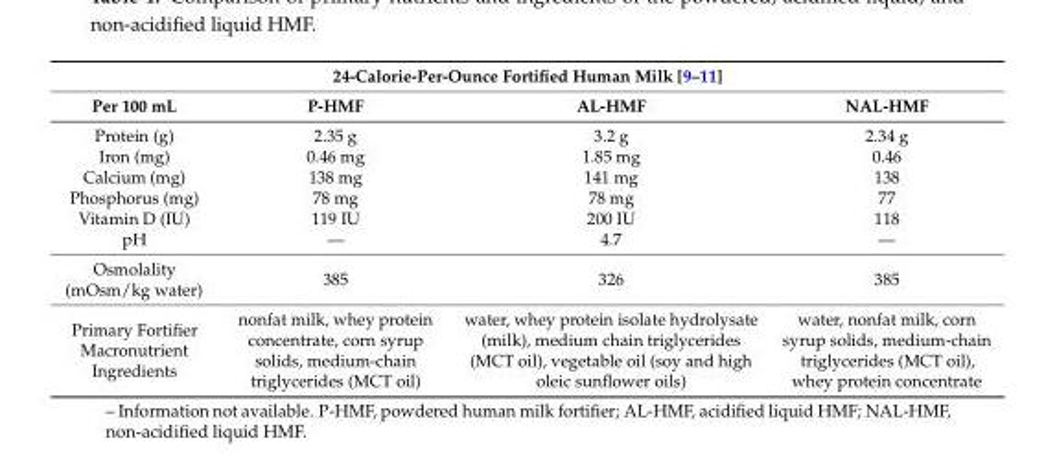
<table><thead><tr><td colspan="4">24-Calorie-Per-Ounce Fortified Human Milk [9–11]</td></tr><tr><td>Per 100 mL</td><td>P-HMF</td><td>AL-HMF</td><td>NAL-HMF</td></tr></thead><tbody><tr><td>Protein (g)</td><td>2.35 g</td><td>3.2 g</td><td>2.34 g</td></tr><tr><td>Iron (mg)</td><td>0.46 mg</td><td>1.85 mg</td><td>0.46</td></tr><tr><td>Calcium (mg)</td><td>138 mg</td><td>141 mg</td><td>138</td></tr><tr><td>Phosphorus (mg)</td><td>78 mg</td><td>78 mg</td><td>77</td></tr><tr><td>Vitamin D (IU)</td><td>119 IU</td><td>200 IU</td><td>118</td></tr><tr><td>pH</td><td>—</td><td>4.7</td><td>—</td></tr><tr><td>Osmolality (mOsm/kg water)</td><td>385</td><td>326</td><td>385</td></tr><tr><td>Primary Fortifier Macronutrient Ingredients</td><td>nonfat milk, whey protein concentrate, corn syrup solids, medium-chain triglycerides (MCT oil)</td><td>water, whey protein isolate hydrolysate (milk), medium chain triglycerides (MCT oil), vegetable oil (soy and high oleic sunflower oils)</td><td>water, nonfat milk, corn syrup solids, medium-chain triglycerides (MCT oil), whey protein concentrate</td></tr></tbody></table>